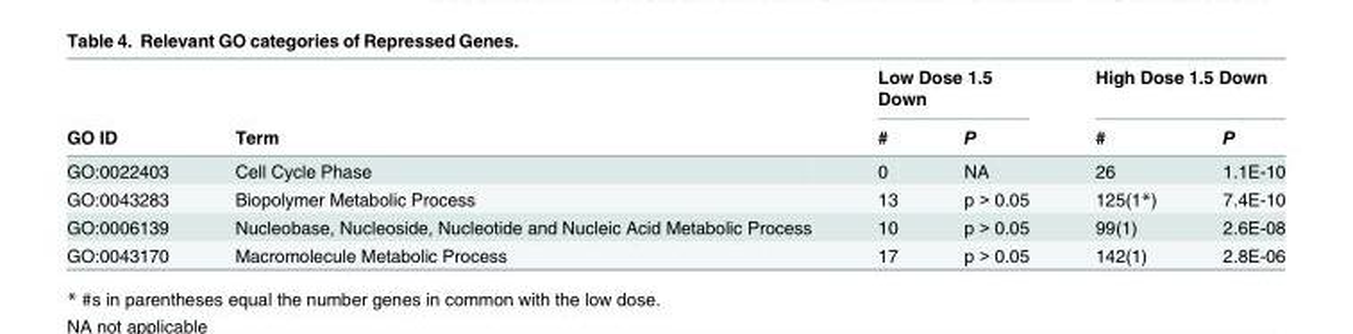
<table><thead><tr><td rowspan="2">GO ID</td><td rowspan="2">Term</td><td colspan="2">Low Dose 1.5 Down</td><td colspan="2">High Dose 1.5 Down</td></tr><tr><td>#</td><td>P</td><td>#</td><td>P</td></tr></thead><tbody><tr><td>GO:0022403</td><td>Cell Cycle Phase</td><td>0</td><td>NA</td><td>26</td><td>1.1E-10</td></tr><tr><td>GO:0043283</td><td>Biopolymer Metabolic Process</td><td>13</td><td>p &gt; 0.05</td><td>125(1*)</td><td>7.4E-10</td></tr><tr><td>GO:0006139</td><td>Nucleobase, Nucleoside, Nucleotide and Nucleic Acid Metabolic Process</td><td>10</td><td>p &gt; 0.05</td><td>99(1)</td><td>2.6E-08</td></tr><tr><td>GO:0043170</td><td>Macromolecule Metabolic Process</td><td>17</td><td>p &gt; 0.05</td><td>142(1)</td><td>2.8E-06</td></tr></tbody></table>